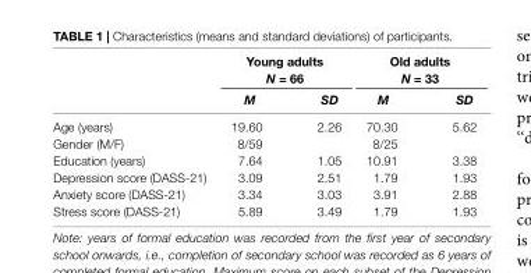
<table><thead><tr><td rowspan="2"></td><td colspan="2">Young adults N = 66</td><td colspan="2">Old adults N = 33</td></tr><tr><td>M</td><td>SD</td><td>M</td><td>SD</td></tr></thead><tbody><tr><td>Age (years)</td><td>19.60</td><td>2.26</td><td>70.30</td><td>5.62</td></tr><tr><td>Gender (M/F)</td><td>8/59</td><td></td><td>8/25</td><td></td></tr><tr><td>Education (years)</td><td>7.64</td><td>1.05</td><td>10.91</td><td>3.38</td></tr><tr><td>Depression score (DASS-21)</td><td>3.09</td><td>2.51</td><td>1.79</td><td>1.93</td></tr><tr><td>Anxiety score (DASS-21)</td><td>3.34</td><td>3.03</td><td>3.91</td><td>2.88</td></tr><tr><td>Stress score (DASS-21)</td><td>5.89</td><td>3.49</td><td>1.79</td><td>1.93</td></tr></tbody></table>